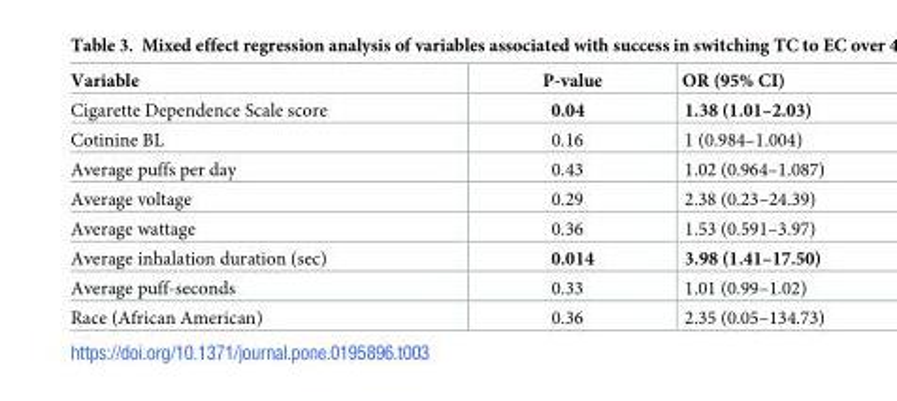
<table><thead><tr><td>Variable</td><td>P-value</td><td>OR (95% CI)</td></tr></thead><tbody><tr><td>Cigarette Dependence Scale score</td><td>0.04</td><td>1.38 (1.01–2.03)</td></tr><tr><td>Cotinine BL</td><td>0.16</td><td>1 (0.984–1.004)</td></tr><tr><td>Average puffs per day</td><td>0.43</td><td>1.02 (0.964–1.087)</td></tr><tr><td>Average voltage</td><td>0.29</td><td>2.38 (0.23–24.39)</td></tr><tr><td>Average wattage</td><td>0.36</td><td>1.53 (0.591–3.97)</td></tr><tr><td>Average inhalation duration (sec)</td><td>0.014</td><td>3.98 (1.41–17.50)</td></tr><tr><td>Average puff-seconds</td><td>0.33</td><td>1.01 (0.99–1.02)</td></tr><tr><td>Race (African American)</td><td>0.36</td><td>2.35 (0.05–134.73)</td></tr></tbody></table>